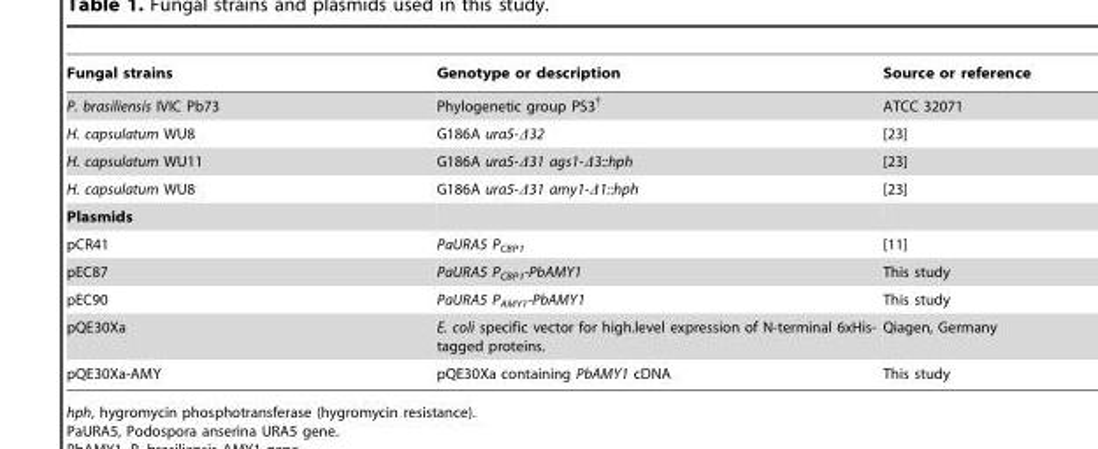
<table><thead><tr><td>Fungal strains</td><td>Genotype or description</td><td>Source or reference</td></tr></thead><tbody><tr><td>P. brasiliensis IVIC Pb73</td><td>Phylogenetic group PS3†</td><td>ATCC 32071</td></tr><tr><td>H. capsulatum WU8</td><td>G186A ura5-Δ32</td><td>[23]</td></tr><tr><td>H. capsulatum WU11</td><td>G186A ura5-Δ31 ags1-Δ3::hph</td><td>[23]</td></tr><tr><td>H. capsulatum WU8</td><td>G186A ura5-Δ31 amy1-Δ1::hph</td><td>[23]</td></tr><tr><td colspan="3">Plasmids</td></tr><tr><td>pCR41</td><td>PaURA5 P<sub>CBP1</sub></td><td>[11]</td></tr><tr><td>pEC87</td><td>PaURA5 P<sub>CBP1</sub>-PbAMY1</td><td>This study</td></tr><tr><td>pEC90</td><td>PaURA5 P<sub>AMY1</sub>-PbAMY1</td><td>This study</td></tr><tr><td>pQE30Xa</td><td>E. coli specific vector for high.level expression of N-terminal 6xHis- tagged proteins.</td><td>Qiagen, Germany</td></tr><tr><td>pQE30Xa-AMY</td><td>pQE30Xa containing PbAMY1 cDNA</td><td>This study</td></tr></tbody></table>